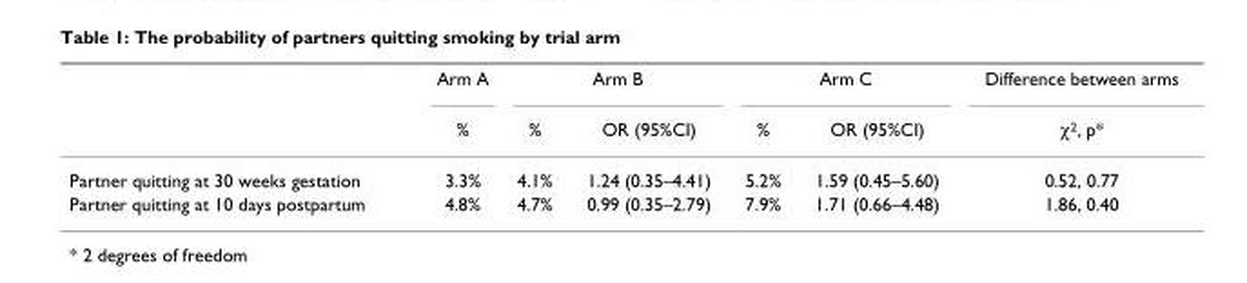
<table><thead><tr><td rowspan="2"></td><td rowspan="2">Arm A %</td><td colspan="2">Arm B</td><td colspan="2">Arm C</td><td rowspan="2">Difference between arms χ<sup>2</sup>, p*</td></tr><tr><td>%</td><td>OR (95%CI)</td><td>%</td><td>OR (95%CI)</td></tr></thead><tbody><tr><td>Partner quitting at 30 weeks gestation</td><td>3.3%</td><td>4.1%</td><td>1.24 (0.35–4.41)</td><td>5.2%</td><td>1.59 (0.45–5.60)</td><td>0.52, 0.77</td></tr><tr><td>Partner quitting at 10 days postpartum</td><td>4.8%</td><td>4.7%</td><td>0.99 (0.35–2.79)</td><td>7.9%</td><td>1.71 (0.66–4.48)</td><td>1.86, 0.40</td></tr></tbody></table>